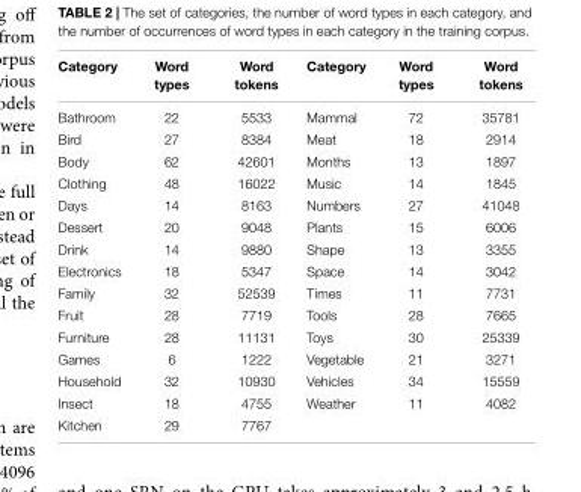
<table><thead><tr><td>Category</td><td>Word types</td><td>Word tokens</td><td>Category</td><td>Word types</td><td>Word tokens</td></tr></thead><tbody><tr><td>Bathroom</td><td>22</td><td>5533</td><td>Mammal</td><td>72</td><td>35781</td></tr><tr><td>Bird</td><td>27</td><td>8384</td><td>Meat</td><td>18</td><td>2914</td></tr><tr><td>Body</td><td>62</td><td>42601</td><td>Months</td><td>13</td><td>1897</td></tr><tr><td>Clothing</td><td>48</td><td>16022</td><td>Music</td><td>14</td><td>1845</td></tr><tr><td>Days</td><td>14</td><td>8163</td><td>Numbers</td><td>27</td><td>41048</td></tr><tr><td>Dessert</td><td>20</td><td>9048</td><td>Plants</td><td>15</td><td>6006</td></tr><tr><td>Drink</td><td>14</td><td>9880</td><td>Shape</td><td>13</td><td>3355</td></tr><tr><td>Electronics</td><td>18</td><td>5347</td><td>Space</td><td>14</td><td>3042</td></tr><tr><td>Family</td><td>32</td><td>52539</td><td>Times</td><td>11</td><td>7731</td></tr><tr><td>Fruit</td><td>28</td><td>7719</td><td>Tools</td><td>28</td><td>7665</td></tr><tr><td>Furniture</td><td>28</td><td>11131</td><td>Toys</td><td>30</td><td>25339</td></tr><tr><td>Games</td><td>6</td><td>1222</td><td>Vegetable</td><td>21</td><td>3271</td></tr><tr><td>Household</td><td>32</td><td>10930</td><td>Vehicles</td><td>34</td><td>15559</td></tr><tr><td>Insect</td><td>18</td><td>4755</td><td>Weather</td><td>11</td><td>4082</td></tr><tr><td>Kitchen</td><td>29</td><td>7767</td><td></td><td></td><td></td></tr></tbody></table>